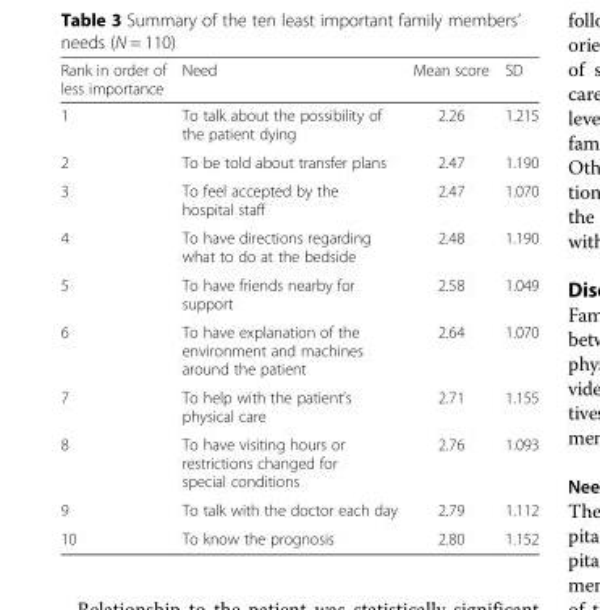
<table><thead><tr><td>Rank in order of less importance</td><td>Need</td><td>Mean score</td><td>SD</td></tr></thead><tbody><tr><td>1</td><td>To talk about the possibility of the patient dying</td><td>2.26</td><td>1.215</td></tr><tr><td>2</td><td>To be told about transfer plans</td><td>2.47</td><td>1.190</td></tr><tr><td>3</td><td>To feel accepted by the hospital staff</td><td>2.47</td><td>1.070</td></tr><tr><td>4</td><td>To have directions regarding what to do at the bedside</td><td>2.48</td><td>1.190</td></tr><tr><td>5</td><td>To have friends nearby for support</td><td>2.58</td><td>1.049</td></tr><tr><td>6</td><td>To have explanation of the environment and machines around the patient</td><td>2.64</td><td>1.070</td></tr><tr><td>7</td><td>To help with the patient’s physical care</td><td>2.71</td><td>1.155</td></tr><tr><td>8</td><td>To have visiting hours or restrictions changed for special conditions</td><td>2.76</td><td>1.093</td></tr><tr><td>9</td><td>To talk with the doctor each day</td><td>2.79</td><td>1.112</td></tr><tr><td>10</td><td>To know the prognosis</td><td>2.80</td><td>1.152</td></tr></tbody></table>